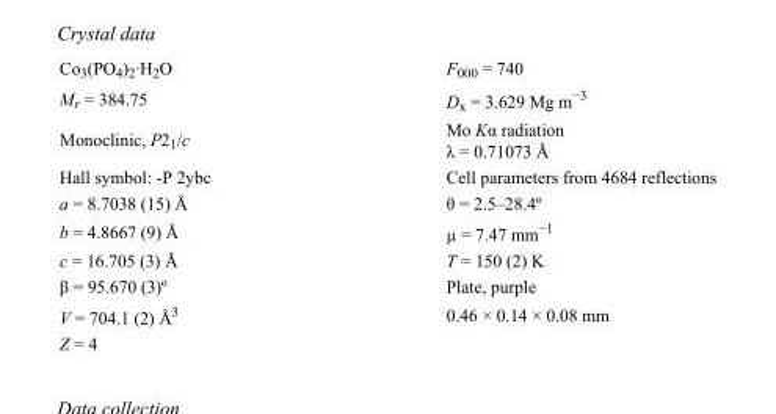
<table><tbody><tr><td>Co<sub>3</sub>(PO<sub>4</sub>)<sub>2</sub>·H<sub>2</sub>O</td><td>F000 = 740</td></tr><tr><td>M<sub>r</sub> = 384.75</td><td>D<sub>x</sub> = 3.629 Mg m<sup>−3</sup></td></tr><tr><td>Monoclinic, P2<sub>1</sub>/c</td><td>Mo Kα radiation λ = 0.71073 Å</td></tr><tr><td>Hall symbol: -P 2ybc</td><td>Cell parameters from 4684 reflections</td></tr><tr><td>a = 8.7038 (15) Å</td><td>θ = 2.5–28.4º</td></tr><tr><td>b = 4.8667 (9) Å</td><td>µ = 7.47 mm<sup>−1</sup></td></tr><tr><td>c = 16.705 (3) Å</td><td>T = 150 (2) K</td></tr><tr><td>β = 95.670 (3)º</td><td>Plate, purple</td></tr><tr><td>V = 704.1 (2) Å<sup>3</sup></td><td>0.46 × 0.14 × 0.08 mm</td></tr><tr><td>Z = 4</td><td></td></tr></tbody></table>